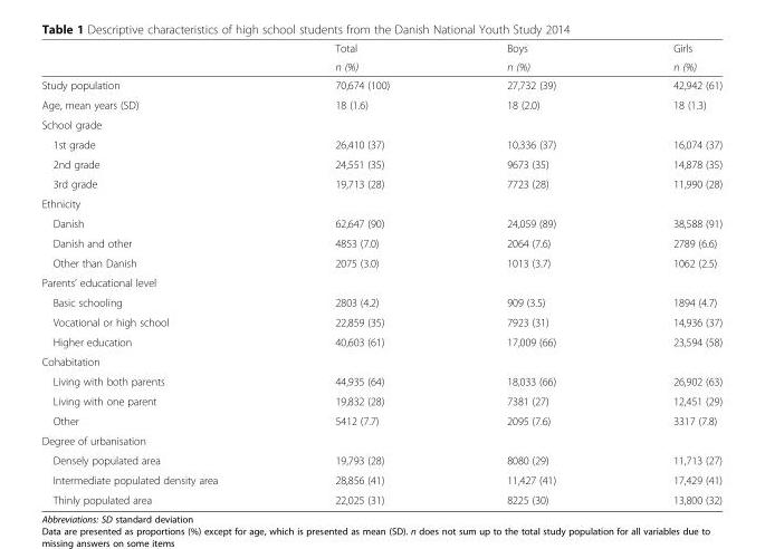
<table><thead><tr><td rowspan="2"></td><td rowspan="2">Total n (%)</td><td rowspan="2">Boys n (%)</td><td rowspan="2">Girls n (%)</td></tr><tr></tr></thead><tbody><tr><td>Study population</td><td>70,674 (100)</td><td>27,732 (39)</td><td>42,942 (61)</td></tr><tr><td>Age, mean years (SD)</td><td>18 (1.6)</td><td>18 (2.0)</td><td>18 (1.3)</td></tr><tr><td colspan="4">School grade</td></tr><tr><td>1st grade</td><td>26,410 (37)</td><td>10,336 (37)</td><td>16,074 (37)</td></tr><tr><td>2nd grade</td><td>24,551 (35)</td><td>9673 (35)</td><td>14,878 (35)</td></tr><tr><td>3rd grade</td><td>19,713 (28)</td><td>7723 (28)</td><td>11,990 (28)</td></tr><tr><td colspan="4">Ethnicity</td></tr><tr><td>Danish</td><td>62,647 (90)</td><td>24,059 (89)</td><td>38,588 (91)</td></tr><tr><td>Danish and other</td><td>4853 (7.0)</td><td>2064 (7.6)</td><td>2789 (6.6)</td></tr><tr><td>Other than Danish</td><td>2075 (3.0)</td><td>1013 (3.7)</td><td>1062 (2.5)</td></tr><tr><td colspan="4">Parents’ educational level</td></tr><tr><td>Basic schooling</td><td>2803 (4.2)</td><td>909 (3.5)</td><td>1894 (4.7)</td></tr><tr><td>Vocational or high school</td><td>22,859 (35)</td><td>7923 (31)</td><td>14,936 (37)</td></tr><tr><td>Higher education</td><td>40,603 (61)</td><td>17,009 (66)</td><td>23,594 (58)</td></tr><tr><td colspan="4">Cohabitation</td></tr><tr><td>Living with both parents</td><td>44,935 (64)</td><td>18,033 (66)</td><td>26,902 (63)</td></tr><tr><td>Living with one parent</td><td>19,832 (28)</td><td>7381 (27)</td><td>12,451 (29)</td></tr><tr><td>Other</td><td>5412 (7.7)</td><td>2095 (7.6)</td><td>3317 (7.8)</td></tr><tr><td colspan="4">Degree of urbanisation</td></tr><tr><td>Densely populated area</td><td>19,793 (28)</td><td>8080 (29)</td><td>11,713 (27)</td></tr><tr><td>Intermediate populated density area</td><td>28,856 (41)</td><td>11,427 (41)</td><td>17,429 (41)</td></tr><tr><td>Thinly populated area</td><td>22,025 (31)</td><td>8225 (30)</td><td>13,800 (32)</td></tr></tbody></table>